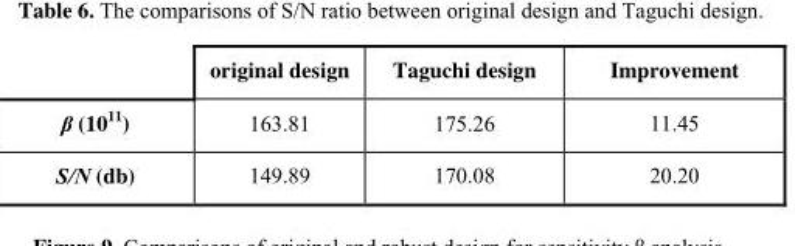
<table><thead><tr><td></td><td>original design</td><td>Taguchi design</td><td>Improvement</td></tr></thead><tbody><tr><td>β (10<sup>11</sup>)</td><td>163.81</td><td>175.26</td><td>11.45</td></tr><tr><td>S/N (db)</td><td>149.89</td><td>170.08</td><td>20.20</td></tr></tbody></table>